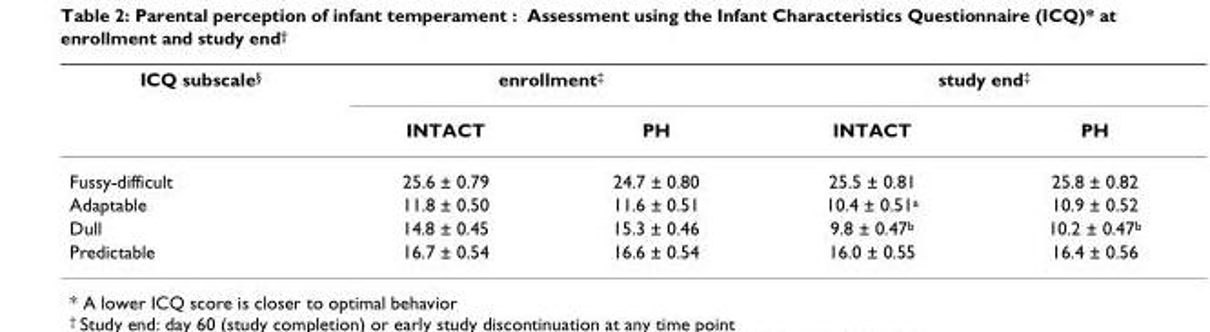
<table><thead><tr><td rowspan="2">ICQ subscale<sup>§</sup></td><td colspan="2">enrollment<sup>‡</sup></td><td colspan="2">study end<sup>‡</sup></td></tr><tr><td>INTACT</td><td>PH</td><td>INTACT</td><td>PH</td></tr></thead><tbody><tr><td>Fussy-difficult</td><td>25.6 ± 0.79</td><td>24.7 ± 0.80</td><td>25.5 ± 0.81</td><td>25.8 ± 0.82</td></tr><tr><td>Adaptable</td><td>11.8 ± 0.50</td><td>11.6 ± 0.51</td><td>10.4 ± 0.51<sup>a</sup></td><td>10.9 ± 0.52</td></tr><tr><td>Dull</td><td>14.8 ± 0.45</td><td>15.3 ± 0.46</td><td>9.8 ± 0.47<sup>b</sup></td><td>10.2 ± 0.47<sup>b</sup></td></tr><tr><td>Predictable</td><td>16.7 ± 0.54</td><td>16.6 ± 0.54</td><td>16.0 ± 0.55</td><td>16.4 ± 0.56</td></tr></tbody></table>